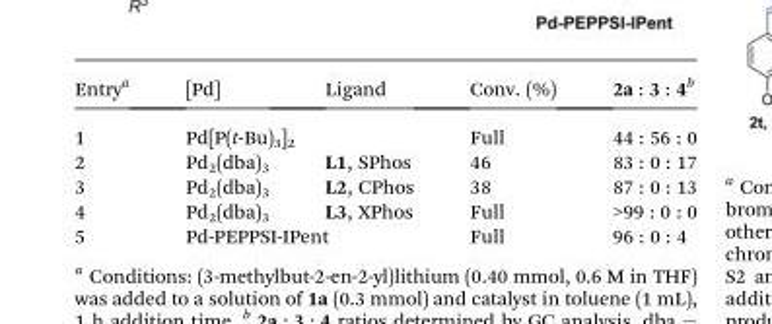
<table><thead><tr><td>Entry<sup>a</sup></td><td>[Pd]</td><td>Ligand</td><td>Conv. (%)</td><td>2a : 3 : 4<sup>b</sup></td></tr></thead><tbody><tr><td>1</td><td colspan="2">Pd[P(t-Bu)<sub>3</sub>]<sub>2</sub></td><td>Full</td><td>44 : 56 : 0</td></tr><tr><td>2</td><td>Pd<sub>2</sub>(dba)<sub>3</sub></td><td>L1, SPhos</td><td>46</td><td>83 : 0 : 17</td></tr><tr><td>3</td><td>Pd<sub>2</sub>(dba)<sub>3</sub></td><td>L2, CPhos</td><td>38</td><td>87 : 0 : 13</td></tr><tr><td>4</td><td>Pd<sub>2</sub>(dba)<sub>3</sub></td><td>L3, XPhos</td><td>Full</td><td>&gt;99 : 0 : 0</td></tr><tr><td>5</td><td colspan="2">Pd-PEPPSI-IPent</td><td>Full</td><td>96 : 0 : 4</td></tr></tbody></table>